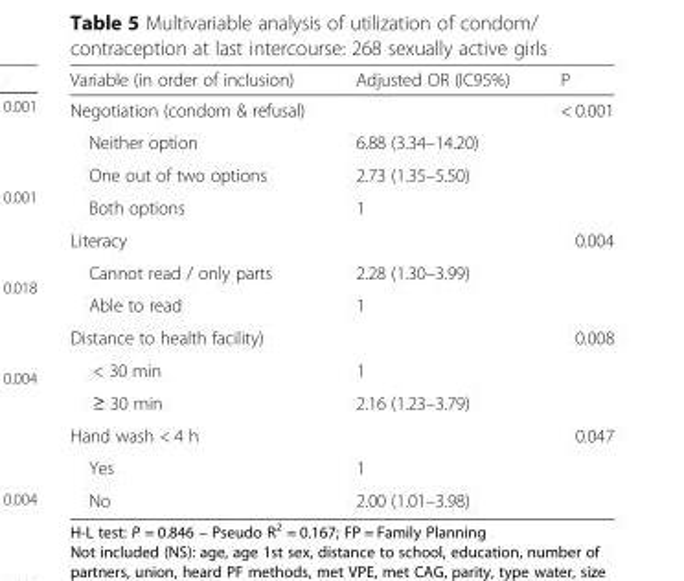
<table><thead><tr><td>Variable (in order of inclusion)</td><td>Adjusted OR (IC95%)</td><td>P</td></tr></thead><tbody><tr><td>Negotiation (condom &amp; refusal)</td><td></td><td>&lt; 0.001</td></tr><tr><td>Neither option</td><td>6.88 (3.34–14.20)</td><td rowspan="3"></td></tr><tr><td>One out of two options</td><td>2.73 (1.35–5.50)</td></tr><tr><td>Both options</td><td>1</td></tr><tr><td>Literacy</td><td></td><td>0.004</td></tr><tr><td>Cannot read / only parts</td><td>2.28 (1.30–3.99)</td><td rowspan="2"></td></tr><tr><td>Able to read</td><td>1</td></tr><tr><td>Distance to health facility)</td><td></td><td>0.008</td></tr><tr><td>&lt; 30 min</td><td>1</td><td rowspan="2"></td></tr><tr><td>≥ 30 min</td><td>2.16 (1.23–3.79)</td></tr><tr><td>Hand wash &lt; 4 h</td><td></td><td>0.047</td></tr><tr><td>Yes</td><td>1</td><td rowspan="2"></td></tr><tr><td>No</td><td>2.00 (1.01–3.98)</td></tr></tbody></table>